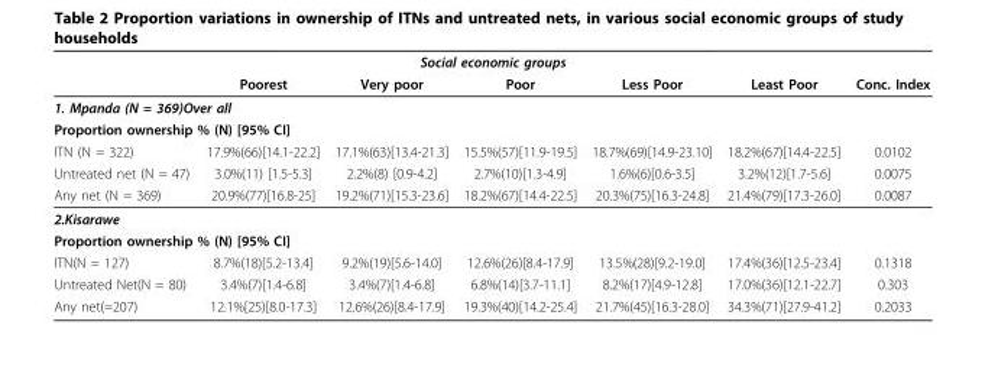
<table><thead><tr><td colspan="7">Social economic groups</td></tr><tr><td></td><td>Poorest</td><td>Very poor</td><td>Poor</td><td>Less Poor</td><td>Least Poor</td><td>Conc. Index</td></tr></thead><tbody><tr><td colspan="7">1. Mpanda (N = 369)Over all</td></tr><tr><td colspan="7">Proportion ownership % (N) [95% CI]</td></tr><tr><td>ITN (N = 322)</td><td>17.9%(66)[14.1-22.2]</td><td>17.1%(63)[13.4-21.3]</td><td>15.5%(57)[11.9-19.5]</td><td>18.7%(69)[14.9-23.10]</td><td>18.2%(67)[14.4-22.5]</td><td>0.0102</td></tr><tr><td>Untreated net (N = 47)</td><td>3.0%(11) [1.5-5.3]</td><td>2.2%(8) [0.9-4.2]</td><td>2.7%(10)[1.3-4.9]</td><td>1.6%(6)[0.6-3.5]</td><td>3.2%(12)[1.7-5.6]</td><td>0.0075</td></tr><tr><td>Any net (N = 369)</td><td>20.9%(77)[16.8-25]</td><td>19.2%(71)[15.3-23.6]</td><td>18.2%(67)[14.4-22.5]</td><td>20.3%(75)[16.3-24.8]</td><td>21.4%(79)[17.3-26.0]</td><td>0.0087</td></tr><tr><td colspan="7">2.Kisarawe</td></tr><tr><td colspan="7">Proportion ownership % (N) [95% CI]</td></tr><tr><td>ITN(N = 127)</td><td>8.7%(18)[5.2-13.4]</td><td>9.2%(19)[5.6-14.0]</td><td>12.6%(26)[8.4-17.9]</td><td>13.5%(28)[9.2-19.0]</td><td>17.4%(36)[12.5-23.4]</td><td>0.1318</td></tr><tr><td>Untreated Net(N = 80)</td><td>3.4%(7)[1.4-6.8]</td><td>3.4%(7)[1.4-6.8]</td><td>6.8%(14)[3.7-11.1]</td><td>8.2%(17)[4.9-12.8]</td><td>17.0%(36)[12.1-22.7]</td><td>0.303</td></tr><tr><td>Any net(=207)</td><td>12.1%[25)[8.0-17.3]</td><td>12.6%(26)[8.4-17.9]</td><td>19.3%(40)[14.2-25.4]</td><td>21.7%(45)[16.3-28.0]</td><td>34.3%(71)[27.9-41.2]</td><td>0.2033</td></tr></tbody></table>